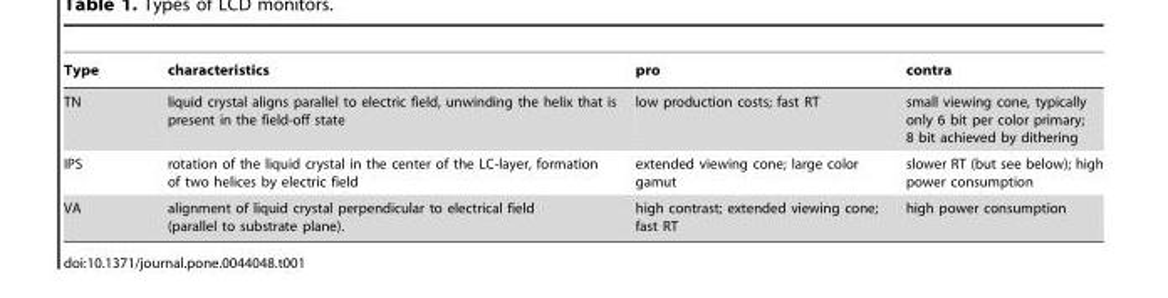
<table><thead><tr><td>Type</td><td>characteristics</td><td>pro</td><td>contra</td></tr></thead><tbody><tr><td>TN</td><td>liquid crystal aligns parallel to electric field, unwinding the helix that is present in the field-off state</td><td>low production costs; fast RT</td><td>small viewing cone, typically only 6 bit per color primary; 8 bit achieved by dithering</td></tr><tr><td>IPS</td><td>rotation of the liquid crystal in the center of the LC-layer, formation of two helices by electric field</td><td>extended viewing cone; large color gamut</td><td>slower RT (but see below); high power consumption</td></tr><tr><td>VA</td><td>alignment of liquid crystal perpendicular to electrical field (parallel to substrate plane).</td><td>high contrast; extended viewing cone; fast RT</td><td>high power consumption</td></tr></tbody></table>